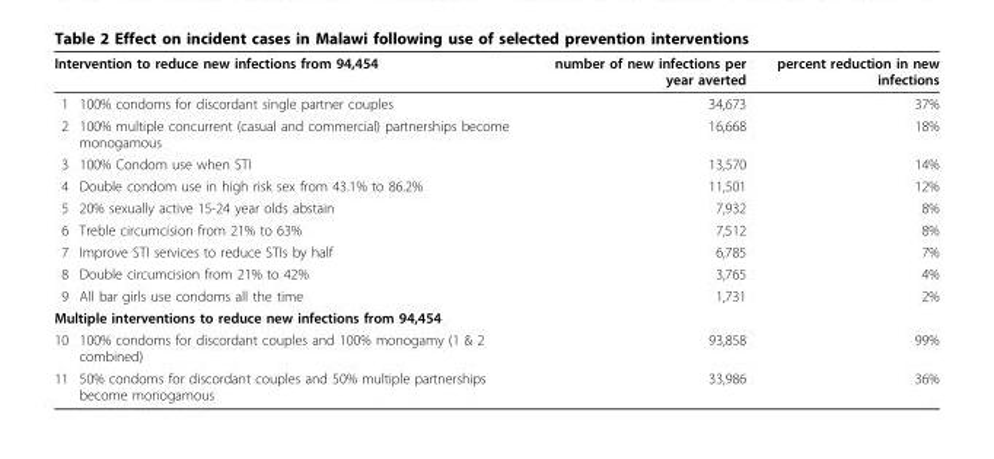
<table><thead><tr><td colspan="2">Intervention to reduce new infections from 94,454</td><td rowspan="2">number of new infections per year averted 34,673</td><td rowspan="2">percent reduction in new infections 37%</td></tr><tr><td>1</td><td>100% condoms for discordant single partner couples</td></tr></thead><tbody><tr><td>2</td><td>100% multiple concurrent (casual and commercial) partnerships become monogamous</td><td>16,668</td><td>18%</td></tr><tr><td>3</td><td>100% Condom use when STI</td><td>13,570</td><td>14%</td></tr><tr><td>4</td><td>Double condom use in high risk sex from 43.1% to 86.2%</td><td>11,501</td><td>12%</td></tr><tr><td>5</td><td>20% sexually active 15-24 year olds abstain</td><td>7,932</td><td>8%</td></tr><tr><td>6</td><td>Treble circumcision from 21% to 63%</td><td>7,512</td><td>8%</td></tr><tr><td>7</td><td>Improve STI services to reduce STIs by half</td><td>6,785</td><td>7%</td></tr><tr><td>8</td><td>Double circumcision from 21% to 42%</td><td>3,765</td><td>4%</td></tr><tr><td>9</td><td>All bar girls use condoms all the time</td><td>1,731</td><td>2%</td></tr><tr><td colspan="4">Multiple interventions to reduce new infections from 94,454</td></tr><tr><td>10</td><td>100% condoms for discordant couples and 100% monogamy (1 &amp; 2 combined)</td><td>93,858</td><td>99%</td></tr><tr><td>11</td><td>50% condoms for discordant couples and 50% multiple partnerships become monogamous</td><td>33,986</td><td>36%</td></tr></tbody></table>